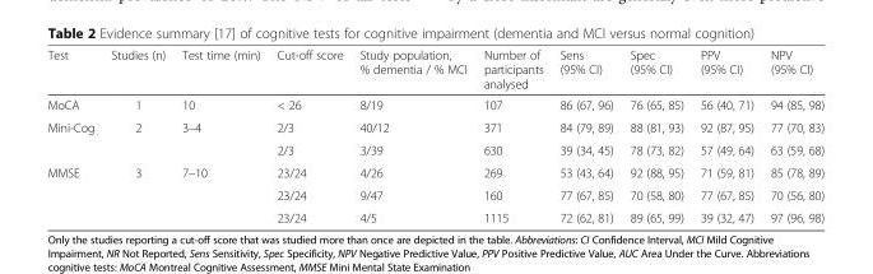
<table><thead><tr><td>Test</td><td>Studies (n)</td><td>Test time (min)</td><td>Cut-off score</td><td>Study population, % dementia / % MCI</td><td>Number of participants analysed</td><td>Sens (95% CI)</td><td>Spec (95% CI)</td><td>PPV (95% CI)</td><td>NPV (95% CI)</td></tr></thead><tbody><tr><td>MoCA</td><td>1</td><td>10</td><td>&lt; 26</td><td>8/19</td><td>107</td><td>86 (67, 96)</td><td>76 (65, 85)</td><td>56 (40, 71)</td><td>94 (85, 98)</td></tr><tr><td rowspan="2">Mini-Cog</td><td>2</td><td>3–4</td><td>2/3</td><td>40/12</td><td>371</td><td>84 (79, 89)</td><td>88 (81, 93)</td><td>92 (87, 95)</td><td>77 (70, 83)</td></tr><tr><td></td><td></td><td>2/3</td><td>3/39</td><td>630</td><td>39 (34, 45)</td><td>78 (73, 82)</td><td>57 (49, 64)</td><td>63 (59, 68)</td></tr><tr><td rowspan="3">MMSE</td><td>3</td><td>7–10</td><td>23/24</td><td>4/26</td><td>269</td><td>53 (43, 64)</td><td>92 (88, 95)</td><td>71 (59, 81)</td><td>85 (78, 89)</td></tr><tr><td></td><td></td><td>23/24</td><td>9/47</td><td>160</td><td>77 (67, 85)</td><td>70 (58, 80)</td><td>77 (67, 85)</td><td>70 (56, 80)</td></tr><tr><td></td><td></td><td>23/24</td><td>4/5</td><td>1115</td><td>72 (62, 81)</td><td>89 (65, 99)</td><td>39 (32, 47)</td><td>97 (96, 98)</td></tr></tbody></table>